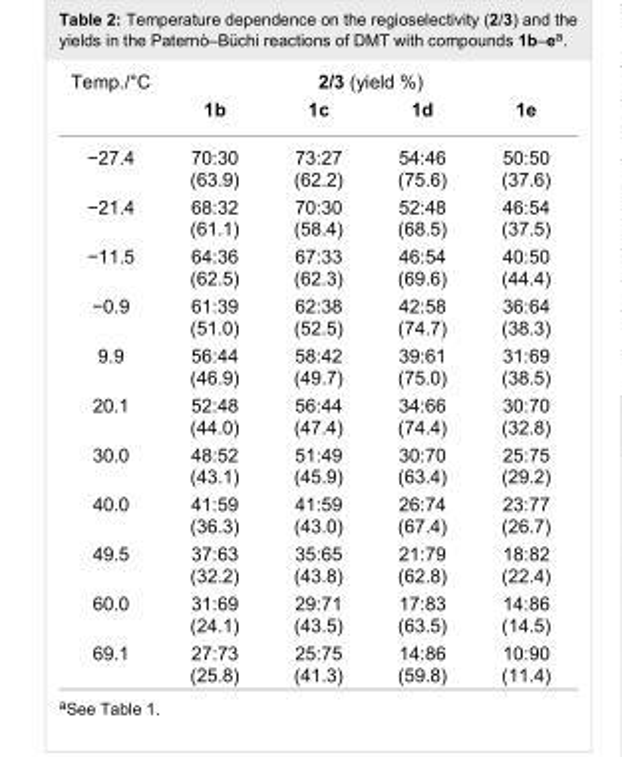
<table><tbody><tr><td rowspan="2">Temp./°C</td><td colspan="4">2/3 (yield %)</td></tr><tr><td>1b</td><td>1c</td><td>1d</td><td>1e</td></tr><tr><td>−27.4</td><td>70:30 (63.9)</td><td>73:27 (62.2)</td><td>54:46 (75.6)</td><td>50:50 (37.6)</td></tr><tr><td>−21.4</td><td>68:32 (61.1)</td><td>70:30 (58.4)</td><td>52:48 (68.5)</td><td>46:54 (37.5)</td></tr><tr><td>−11.5</td><td>64:36 (62.5)</td><td>67:33 (62.3)</td><td>46:54 (69.6)</td><td>40:50 (44.4)</td></tr><tr><td>−0.9</td><td>61:39 (51.0)</td><td>62:38 (52.5)</td><td>42:58 (74.7)</td><td>36:64 (38.3)</td></tr><tr><td>9.9</td><td>56:44 (46.9)</td><td>58:42 (49.7)</td><td>39:61 (75.0)</td><td>31:69 (38.5)</td></tr><tr><td>20.1</td><td>52:48 (44.0)</td><td>56:44 (47.4)</td><td>34:66 (74.4)</td><td>30:70 (32.8)</td></tr><tr><td>30.0</td><td>48:52 (43.1)</td><td>51:49 (45.9)</td><td>30:70 (63.4)</td><td>25:75 (29.2)</td></tr><tr><td>40.0</td><td>41:59 (36.3)</td><td>41:59 (43.0)</td><td>26:74 (67.4)</td><td>23:77 (26.7)</td></tr><tr><td>49.5</td><td>37:63 (32.2)</td><td>35:65 (43.8)</td><td>21:79 (62.8)</td><td>18:82 (22.4)</td></tr><tr><td>60.0</td><td>31:69 (24.1)</td><td>29:71 (43.5)</td><td>17:83 (63.5)</td><td>14:86 (14.5)</td></tr><tr><td>69.1</td><td>27:73 (25.8)</td><td>25:75 (41.3)</td><td>14:86 (59.8)</td><td>10:90 (11.4)</td></tr></tbody></table>